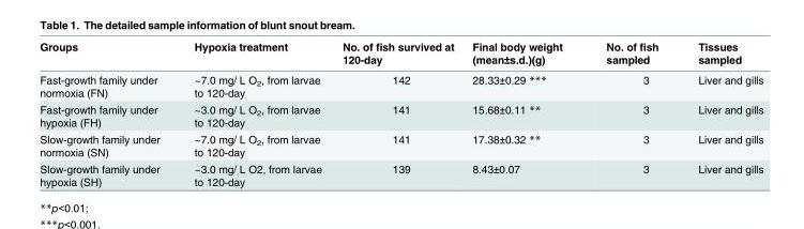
<table><thead><tr><td>Groups</td><td>Hypoxia treatment</td><td>No. of fish survived at 120-day</td><td>Final body weight (mean±s.d.)(g)</td><td>No. of fish sampled</td><td>Tissues sampled</td></tr></thead><tbody><tr><td>Fast-growth family under normoxia (FN)</td><td>~7.0 mg/ L O<sub>2</sub>, from larvae to 120-day</td><td>142</td><td>28.33±0.29 ***</td><td>3</td><td>Liver and gills</td></tr><tr><td>Fast-growth family under hypoxia (FH)</td><td>~3.0 mg/ L O<sub>2</sub>, from larvae to 120-day</td><td>141</td><td>15.68±0.11 **</td><td>3</td><td>Liver and gills</td></tr><tr><td>Slow-growth family under normoxia (SN)</td><td>~7.0 mg/ L O<sub>2</sub>, from larvae to 120-day</td><td>141</td><td>17.38±0.32 **</td><td>3</td><td>Liver and gills</td></tr><tr><td>Slow-growth family under hypoxia (SH)</td><td>~3.0 mg/ L O2, from larvae to 120-day</td><td>139</td><td>8.43±0.07</td><td>3</td><td>Liver and gills</td></tr></tbody></table>